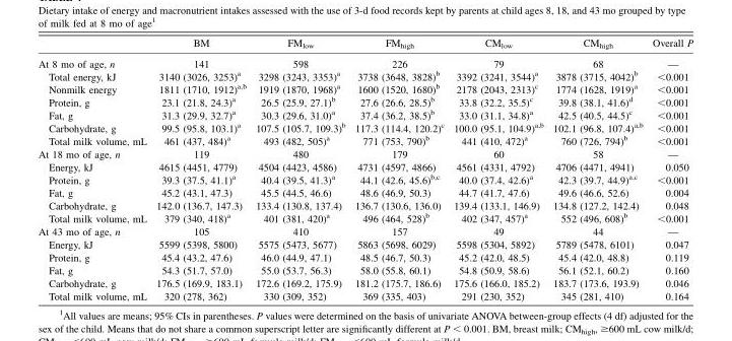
<table><thead><tr><td></td><td>BM</td><td>FM<sub>low</sub></td><td>FM<sub>high</sub></td><td>CM<sub>low</sub></td><td>CM<sub>high</sub></td><td>Overall P</td></tr></thead><tbody><tr><td>At 8 mo of age, n</td><td>141</td><td>598</td><td>226</td><td>79</td><td>68</td><td>—</td></tr><tr><td>Total energy, kJ</td><td>3140 (3026, 3253)<sup>a</sup></td><td>3298 (3243, 3353)<sup>a</sup></td><td>3738 (3648, 3828)<sup>b</sup></td><td>3392 (3241, 3544)<sup>a</sup></td><td>3878 (3715, 4042)<sup>b</sup></td><td>&lt;0.001</td></tr><tr><td>Nonmilk energy</td><td>1811 (1710, 1912)<sup>a,b</sup></td><td>1919 (1870, 1968)<sup>a</sup></td><td>1600 (1520, 1680)<sup>b</sup></td><td>2178 (2043, 2313)<sup>c</sup></td><td>1774 (1628, 1919)<sup>a</sup></td><td>&lt;0.001</td></tr><tr><td>Protein, g</td><td>23.1 (21.8, 24.3)<sup>a</sup></td><td>26.5 (25.9, 27.1)<sup>b</sup></td><td>27.6 (26.6, 28.5)<sup>b</sup></td><td>33.8 (32.2, 35.5)<sup>c</sup></td><td>39.8 (38.1, 41.6)<sup>d</sup></td><td>&lt;0.001</td></tr><tr><td>Fat, g</td><td>31.3 (29.9, 32.7)<sup>a</sup></td><td>30.3 (29.6, 31.0)<sup>a</sup></td><td>37.4 (36.2, 38.5)<sup>b</sup></td><td>33.0 (31.1, 34.8)<sup>a</sup></td><td>42.5 (40.5, 44.5)<sup>c</sup></td><td>&lt;0.001</td></tr><tr><td>Carbohydrate, g</td><td>99.5 (95.8, 103.1)<sup>a</sup></td><td>107.5 (105.7, 109.3)<sup>b</sup></td><td>117.3 (114.4, 120.2)<sup>c</sup></td><td>100.0 (95.1, 104.9)<sup>a,b</sup></td><td>102.1 (96.8, 107.4)<sup>a,b</sup></td><td>&lt;0.001</td></tr><tr><td>Total milk volume, mL</td><td>461 (437, 484)<sup>a</sup></td><td>493 (482, 505)<sup>a</sup></td><td>771 (753, 790)<sup>b</sup></td><td>441 (410, 472)<sup>a</sup></td><td>760 (726, 794)<sup>b</sup></td><td>&lt;0.001</td></tr><tr><td>At 18 mo of age, n</td><td>119</td><td>480</td><td>179</td><td>60</td><td>58</td><td>—</td></tr><tr><td>Energy, kJ</td><td>4615 (4451, 4779)</td><td>4504 (4423, 4586)</td><td>4731 (4597, 4866)</td><td>4561 (4331, 4792)</td><td>4706 (4471, 4941)</td><td>0.050</td></tr><tr><td>Protein, g</td><td>39.3 (37.5, 41.1)<sup>a</sup></td><td>40.4 (39.5, 41.3)<sup>a</sup></td><td>44.1 (42.6, 45.6)<sup>b,c</sup></td><td>40.0 (37.4, 42.6)<sup>a</sup></td><td>42.3 (39.7, 44.9)<sup>a,c</sup></td><td>&lt;0.001</td></tr><tr><td>Fat, g</td><td>45.2 (43.1, 47.3)</td><td>45.5 (44.5, 46.6)</td><td>48.6 (46.9, 50.3)</td><td>44.7 (41.7, 47.6)</td><td>49.6 (46.6, 52.6)</td><td>0.004</td></tr><tr><td>Carbohydrate, g</td><td>142.0 (136.7, 147.3)</td><td>133.4 (130.8, 137.4)</td><td>136.7 (130.6, 136.0)</td><td>139.4 (133.1, 146.9)</td><td>134.8 (127.2, 142.4)</td><td>0.048</td></tr><tr><td>Total milk volume, mL</td><td>379 (340, 418)<sup>a</sup></td><td>401 (381, 420)<sup>a</sup></td><td>496 (464, 528)<sup>b</sup></td><td>402 (347, 457)<sup>a</sup></td><td>552 (496, 608)<sup>b</sup></td><td>&lt;0.001</td></tr><tr><td>At 43 mo of age, n</td><td>105</td><td>410</td><td>157</td><td>49</td><td>44</td><td>—</td></tr><tr><td>Energy, kJ</td><td>5599 (5398, 5800)</td><td>5575 (5473, 5677)</td><td>5863 (5698, 6029)</td><td>5598 (5304, 5892)</td><td>5789 (5478, 6101)</td><td>0.047</td></tr><tr><td>Protein, g</td><td>45.4 (43.2, 47.6)</td><td>46.0 (44.9, 47.1)</td><td>48.5 (46.7, 50.3)</td><td>45.2 (42.0, 48.5)</td><td>45.4 (42.0, 48.8)</td><td>0.119</td></tr><tr><td>Fat, g</td><td>54.3 (51.7, 57.0)</td><td>55.0 (53.7, 56.3)</td><td>58.0 (55.8, 60.1)</td><td>54.8 (50.9, 58.6)</td><td>56.1 (52.1, 60.2)</td><td>0.160</td></tr><tr><td>Carbohydrate, g</td><td>176.5 (169.9, 183.1)</td><td>172.6 (169.2, 175.9)</td><td>181.2 (175.7, 186.6)</td><td>175.6 (166.0, 185.2)</td><td>183.7 (173.6, 193.9)</td><td>0.046</td></tr><tr><td>Total milk volume, mL</td><td>320 (278, 362)</td><td>330 (309, 352)</td><td>369 (335, 403)</td><td>291 (230, 352)</td><td>345 (281, 410)</td><td>0.164</td></tr></tbody></table>